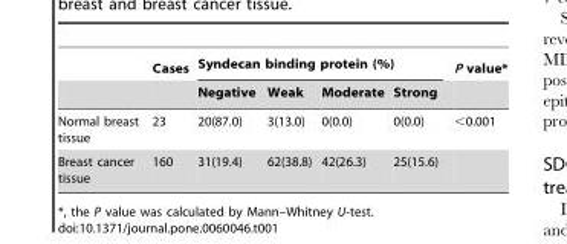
<table><thead><tr><td rowspan="2"></td><td rowspan="2">Cases</td><td colspan="4">Syndecan binding protein (%)</td><td rowspan="2">P value*</td></tr><tr><td>Negative</td><td>Weak</td><td>Moderate</td><td>Strong</td></tr></thead><tbody><tr><td>Normal breast tissue</td><td>23</td><td>20(87.0)</td><td>3(13.0)</td><td>0(0.0)</td><td>0(0.0)</td><td>&lt;0.001</td></tr><tr><td>Breast cancer tissue</td><td>160</td><td>31(19.4)</td><td>62(38.8)</td><td>42(26.3)</td><td>25(15.6)</td><td></td></tr></tbody></table>